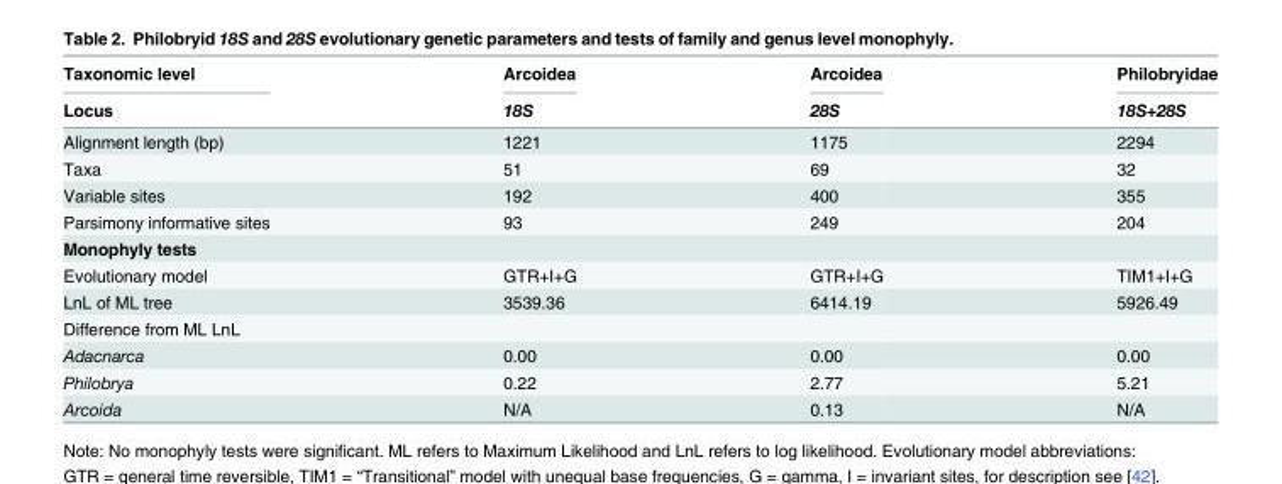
<table><thead><tr><td rowspan="2">Taxonomic level Locus</td><td rowspan="2">Arcoidea 18S</td><td rowspan="2">Arcoidea 28S</td><td rowspan="2">Philobryidae 18S+28S</td></tr><tr></tr></thead><tbody><tr><td>Alignment length (bp)</td><td>1221</td><td>1175</td><td>2294</td></tr><tr><td>Taxa</td><td>51</td><td>69</td><td>32</td></tr><tr><td>Variable sites</td><td>192</td><td>400</td><td>355</td></tr><tr><td>Parsimony informative sites</td><td>93</td><td>249</td><td>204</td></tr><tr><td colspan="4">Monophyly tests</td></tr><tr><td>Evolutionary model</td><td>GTR+I+G</td><td>GTR+I+G</td><td>TIM1+I+G</td></tr><tr><td>LnL of ML tree</td><td>3539.36</td><td>6414.19</td><td>5926.49</td></tr><tr><td colspan="4">Difference from ML LnL</td></tr><tr><td>Adacnarca</td><td>0.00</td><td>0.00</td><td>0.00</td></tr><tr><td>Philobrya</td><td>0.22</td><td>2.77</td><td>5.21</td></tr><tr><td>Arcoida</td><td>N/A</td><td>0.13</td><td>N/A</td></tr></tbody></table>